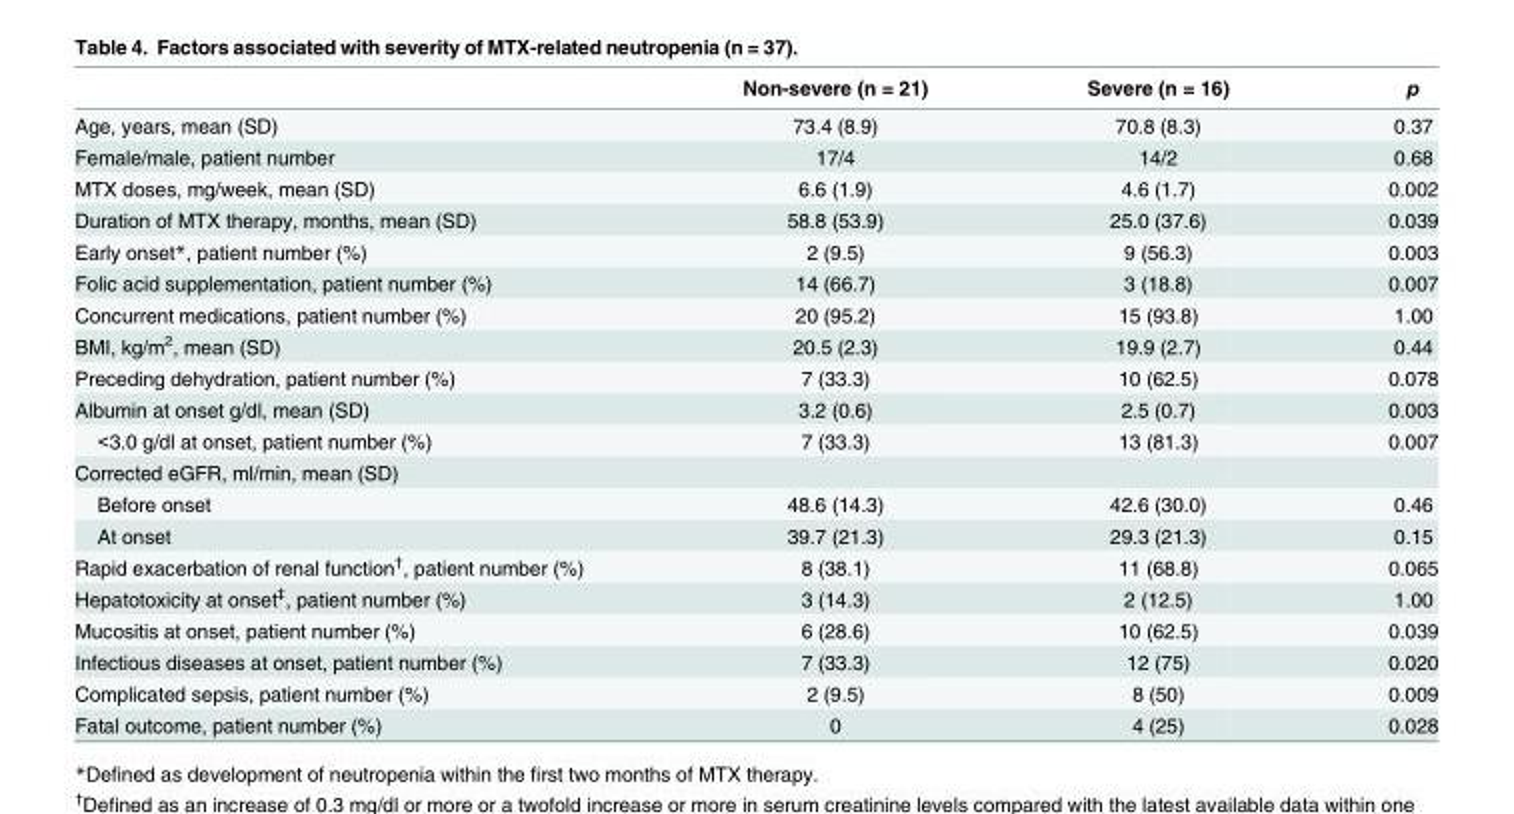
<table><thead><tr><td></td><td>Non-severe (n = 21)</td><td>Severe (n = 16)</td><td>p</td></tr></thead><tbody><tr><td>Age, years, mean (SD)</td><td>73.4 (8.9)</td><td>70.8 (8.3)</td><td>0.37</td></tr><tr><td>Female/male, patient number</td><td>17/4</td><td>14/2</td><td>0.68</td></tr><tr><td>MTX doses, mg/week, mean (SD)</td><td>6.6 (1.9)</td><td>4.6 (1.7)</td><td>0.002</td></tr><tr><td>Duration of MTX therapy, months, mean (SD)</td><td>58.8 (53.9)</td><td>25.0 (37.6)</td><td>0.039</td></tr><tr><td>Early onset*, patient number (%)</td><td>2 (9.5)</td><td>9 (56.3)</td><td>0.003</td></tr><tr><td>Folic acid supplementation, patient number (%)</td><td>14 (66.7)</td><td>3 (18.8)</td><td>0.007</td></tr><tr><td>Concurrent medications, patient number (%)</td><td>20 (95.2)</td><td>15 (93.8)</td><td>1.00</td></tr><tr><td>BMI, kg/m<sup>2</sup>, mean (SD)</td><td>20.5 (2.3)</td><td>19.9 (2.7)</td><td>0.44</td></tr><tr><td>Preceding dehydration, patient number (%)</td><td>7 (33.3)</td><td>10 (62.5)</td><td>0.078</td></tr><tr><td>Albumin at onset g/dl, mean (SD)</td><td>3.2 (0.6)</td><td>2.5 (0.7)</td><td>0.003</td></tr><tr><td>&lt;3.0 g/dl at onset, patient number (%)</td><td>7 (33.3)</td><td>13 (81.3)</td><td>0.007</td></tr><tr><td colspan="4">Corrected eGFR, ml/min, mean (SD)</td></tr><tr><td>Before onset</td><td>48.6 (14.3)</td><td>42.6 (30.0)</td><td>0.46</td></tr><tr><td>At onset</td><td>39.7 (21.3)</td><td>29.3 (21.3)</td><td>0.15</td></tr><tr><td>Rapid exacerbation of renal function<sup>†</sup>, patient number (%)</td><td>8 (38.1)</td><td>11 (68.8)</td><td>0.065</td></tr><tr><td>Hepatotoxicity at onset<sup>‡</sup>, patient number (%)</td><td>3 (14.3)</td><td>2 (12.5)</td><td>1.00</td></tr><tr><td>Mucositis at onset, patient number (%)</td><td>6 (28.6)</td><td>10 (62.5)</td><td>0.039</td></tr><tr><td>Infectious diseases at onset, patient number (%)</td><td>7 (33.3)</td><td>12 (75)</td><td>0.020</td></tr><tr><td>Complicated sepsis, patient number (%)</td><td>2 (9.5)</td><td>8 (50)</td><td>0.009</td></tr><tr><td>Fatal outcome, patient number (%)</td><td>0</td><td>4 (25)</td><td>0.028</td></tr></tbody></table>